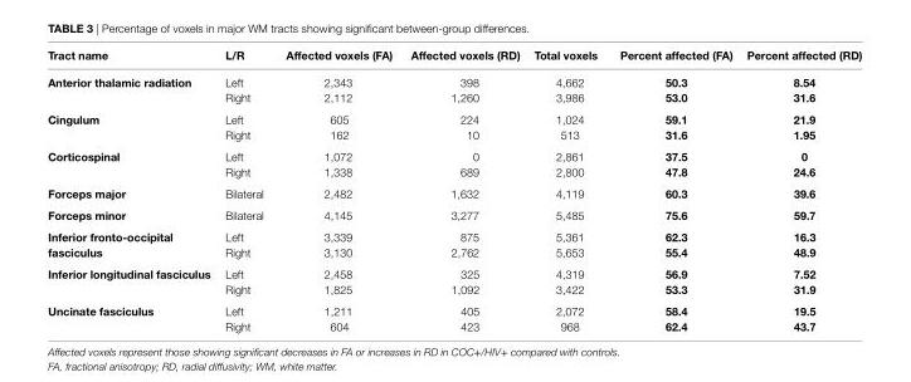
<table><thead><tr><td>Tract name</td><td>l/r</td><td>affected voxels (Fa)</td><td>affected voxels (rD)</td><td>Total voxels</td><td>Percent affected (Fa)</td><td>Percent affected (rD)</td></tr></thead><tbody><tr><td rowspan="2">anterior thalamic radiation</td><td>Left</td><td>2,343</td><td>398</td><td>4,662</td><td>50.3</td><td>8.54</td></tr><tr><td>Right</td><td>2,112</td><td>1,260</td><td>3,986</td><td>53.0</td><td>31.6</td></tr><tr><td rowspan="2">cingulum</td><td>Left</td><td>605</td><td>224</td><td>1,024</td><td>59.1</td><td>21.9</td></tr><tr><td>Right</td><td>162</td><td>10</td><td>513</td><td>31.6</td><td>1.95</td></tr><tr><td rowspan="2">corticospinal</td><td>Left</td><td>1,072</td><td>0</td><td>2,861</td><td>37.5</td><td>0</td></tr><tr><td>Right</td><td>1,338</td><td>689</td><td>2,800</td><td>47.8</td><td>24.6</td></tr><tr><td>Forceps major</td><td>Bilateral</td><td>2,482</td><td>1,632</td><td>4,119</td><td>60.3</td><td>39.6</td></tr><tr><td>Forceps minor</td><td>Bilateral</td><td>4,145</td><td>3,277</td><td>5,485</td><td>75.6</td><td>59.7</td></tr><tr><td rowspan="2">inferior fronto-occipital fasciculus</td><td>Left</td><td>3,339</td><td>875</td><td>5,361</td><td>62.3</td><td>16.3</td></tr><tr><td>Right</td><td>3,130</td><td>2,762</td><td>5,653</td><td>55.4</td><td>48.9</td></tr><tr><td rowspan="2">inferior longitudinal fasciculus</td><td>Left</td><td>2,458</td><td>325</td><td>4,319</td><td>56.9</td><td>7.52</td></tr><tr><td>Right</td><td>1,825</td><td>1,092</td><td>3,422</td><td>53.3</td><td>31.9</td></tr><tr><td rowspan="2">Uncinate fasciculus</td><td>Left</td><td>1,211</td><td>405</td><td>2,072</td><td>58.4</td><td>19.5</td></tr><tr><td>Right</td><td>604</td><td>423</td><td>968</td><td>62.4</td><td>43.7</td></tr></tbody></table>